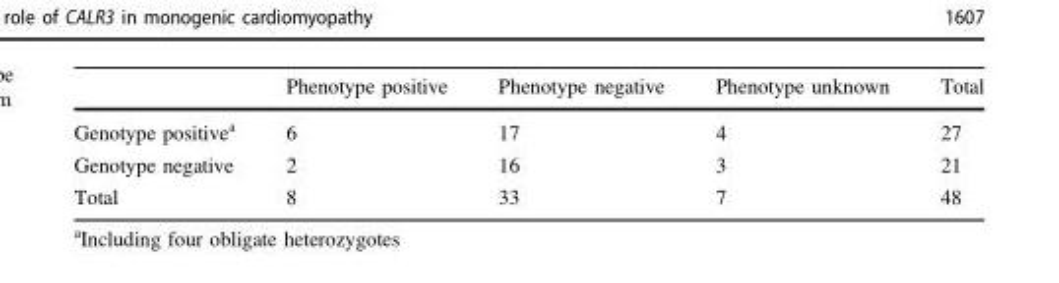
<table><thead><tr><td></td><td>Phenotype positive</td><td>Phenotype negative</td><td>Phenotype unknown</td><td>Total</td></tr></thead><tbody><tr><td>Genotype positive<sup>a</sup></td><td>6</td><td>17</td><td>4</td><td>27</td></tr><tr><td>Genotype negative</td><td>2</td><td>16</td><td>3</td><td>21</td></tr><tr><td>Total</td><td>8</td><td>33</td><td>7</td><td>48</td></tr></tbody></table>